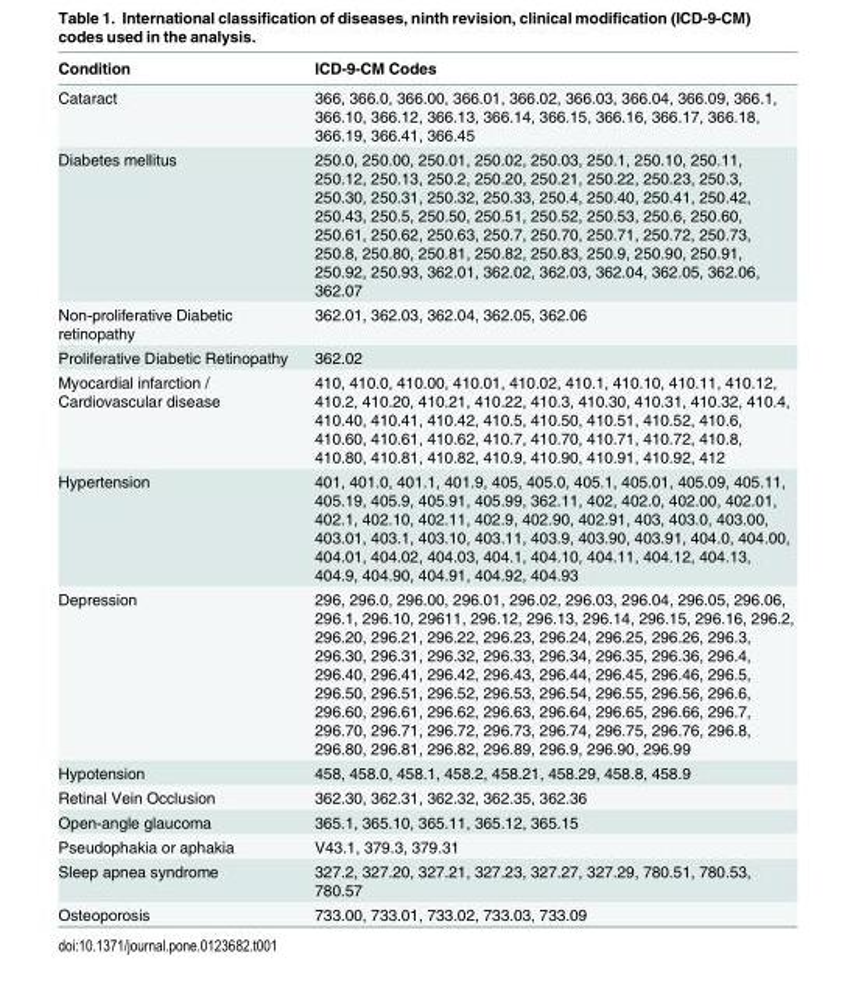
<table><thead><tr><td>Condition</td><td>ICD-9-CM Codes</td></tr></thead><tbody><tr><td>Cataract</td><td>366, 366.0, 366.00, 366.01, 366.02, 366.03, 366.04, 366.09, 366.1, 366.10, 366.12, 366.13, 366.14, 366.15, 366.16, 366.17, 366.18, 366.19, 366.41, 366.45</td></tr><tr><td>Diabetes mellitus</td><td>250.0, 250.00, 250.01, 250.02, 250.03, 250.1, 250.10, 250.11, 250.12, 250.13, 250.2, 250.20, 250.21, 250.22, 250.23, 250.3, 250.30, 250.31, 250.32, 250.33, 250.4, 250.40, 250.41, 250.42, 250.43, 250.5, 250.50, 250.51, 250.52, 250.53, 250.6, 250.60, 250.61, 250.62, 250.63, 250.7, 250.70, 250.71, 250.72, 250.73, 250.8, 250.80, 250.81, 250.82, 250.83, 250.9, 250.90, 250.91, 250.92, 250.93, 362.01, 362.02, 362.03, 362.04, 362.05, 362.06, 362.07</td></tr><tr><td>Non-proliferative Diabetic retinopathy</td><td>362.01, 362.03, 362.04, 362.05, 362.06</td></tr><tr><td>Proliferative Diabetic Retinopathy</td><td>362.02</td></tr><tr><td>Myocardial infarction / Cardiovascular disease</td><td>410, 410.0, 410.00, 410.01, 410.02, 410.1, 410.10, 410.11, 410.12, 410.2, 410.20, 410.21, 410.22, 410.3, 410.30, 410.31, 410.32, 410.4, 410.40, 410.41, 410.42, 410.5, 410.50, 410.51, 410.52, 410.6, 410.60, 410.61, 410.62, 410.7, 410.70, 410.71, 410.72, 410.8, 410.80, 410.81, 410.82, 410.9, 410.90, 410.91, 410.92, 412</td></tr><tr><td>Hypertension</td><td>401, 401.0, 401.1, 401.9, 405, 405.0, 405.1, 405.01, 405.09, 405.11, 405.19, 405.9, 405.91, 405.99, 362.11, 402, 402.0, 402.00, 402.01, 402.1, 402.10, 402.11, 402.9, 402.90, 402.91, 403, 403.0, 403.00, 403.01, 403.1, 403.10, 403.11, 403.9, 403.90, 403.91, 404.0, 404.00, 404.01, 404.02, 404.03, 404.1, 404.10, 404.11, 404.12, 404.13, 404.9, 404.90, 404.91, 404.92, 404.93</td></tr><tr><td>Depression</td><td>296, 296.0, 296.00, 296.01, 296.02, 296.03, 296.04, 296.05, 296.06, 296.1, 296.10, 29611, 296.12, 296.13, 296.14, 296.15, 296.16, 296.2, 296.20, 296.21, 296.22, 296.23, 296.24, 296.25, 296.26, 296.3, 296.30, 296.31, 296.32, 296.33, 296.34, 296.35, 296.36, 296.4, 296.40, 296.41, 296.42, 296.43, 296.44, 296.45, 296.46, 296.5, 296.50, 296.51, 296.52, 296.53, 296.54, 296.55, 296.56, 296.6, 296.60, 296.61, 296.62, 296.63, 296.64, 296.65, 296.66, 296.7, 296.70, 296.71, 296.72, 296.73, 296.74, 296.75, 296.76, 296.8, 296.80, 296.81, 296.82, 296.89, 296.9, 296.90, 296.99</td></tr><tr><td>Hypotension</td><td>458, 458.0, 458.1, 458.2, 458.21, 458.29, 458.8, 458.9</td></tr><tr><td>Retinal Vein Occlusion</td><td>362.30, 362.31, 362.32, 362.35, 362.36</td></tr><tr><td>Open-angle glaucoma</td><td>365.1, 365.10, 365.11, 365.12, 365.15</td></tr><tr><td>Pseudophakia or aphakia</td><td>V43.1, 379.3, 379.31</td></tr><tr><td>Sleep apnea syndrome</td><td>327.2, 327.20, 327.21, 327.23, 327.27, 327.29, 780.51, 780.53, 780.57</td></tr><tr><td>Osteoporosis</td><td>733.00, 733.01, 733.02, 733.03, 733.09</td></tr></tbody></table>